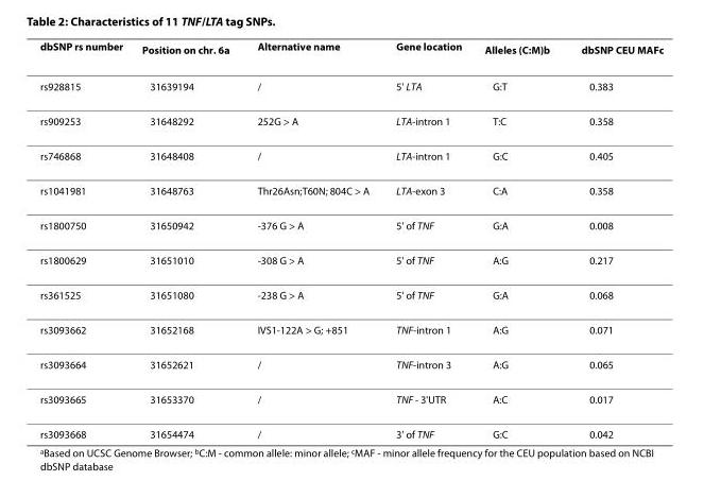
<table><thead><tr><td>dbSNP rs number</td><td>Position on chr. 6<sup>a</sup></td><td>Alternative name</td><td>Gene location</td><td>Alleles (C:M)<sup>b</sup></td><td>dbSNP CEU MAF<sup>c</sup></td></tr></thead><tbody><tr><td>rs928815</td><td>31639194</td><td>/</td><td>5&#x27; LTA</td><td>G:T</td><td>0.383</td></tr><tr><td>rs909253</td><td>31648292</td><td>252G &gt; A</td><td>LTA-intron 1</td><td>T:C</td><td>0.358</td></tr><tr><td>rs746868</td><td>31648408</td><td>/</td><td>LTA-intron 1</td><td>G:C</td><td>0.405</td></tr><tr><td>rs1041981</td><td>31648763</td><td>Thr26Asn;T60N; 804C &gt; A</td><td>LTA-exon 3</td><td>C:A</td><td>0.358</td></tr><tr><td>rs1800750</td><td>31650942</td><td>-376 G &gt; A</td><td>5&#x27; of TNF</td><td>G:A</td><td>0.008</td></tr><tr><td>rs1800629</td><td>31651010</td><td>-308 G &gt; A</td><td>5&#x27; of TNF</td><td>A:G</td><td>0.217</td></tr><tr><td>rs361525</td><td>31651080</td><td>-238 G &gt; A</td><td>5&#x27; of TNF</td><td>G:A</td><td>0.068</td></tr><tr><td>rs3093662</td><td>31652168</td><td>IVS1-122A &gt; G; +851</td><td>TNF-intron 1</td><td>A:G</td><td>0.071</td></tr><tr><td>rs3093664</td><td>31652621</td><td>/</td><td>TNF-intron 3</td><td>A:G</td><td>0.065</td></tr><tr><td>rs3093665</td><td>31653370</td><td>/</td><td>TNF - 3&#x27;UTR</td><td>A:C</td><td>0.017</td></tr><tr><td>rs3093668</td><td>31654474</td><td>/</td><td>3&#x27; of TNF</td><td>G:C</td><td>0.042</td></tr></tbody></table>